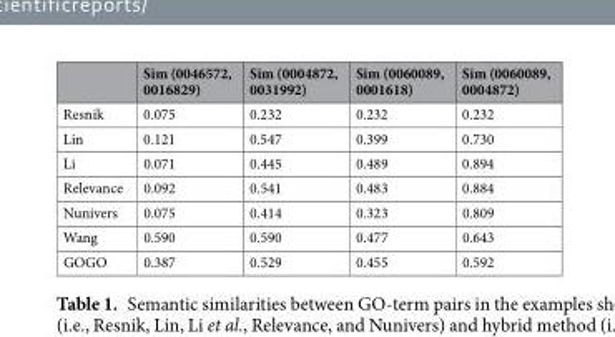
<table><thead><tr><td></td><td>Sim (0046572, 0016829)</td><td>Sim (0004872, 0031992)</td><td>Sim (0060089, 0001618)</td><td>Sim (0060089, 0004872)</td></tr></thead><tbody><tr><td>Resnik</td><td>0.075</td><td>0.232</td><td>0.232</td><td>0.232</td></tr><tr><td>Lin</td><td>0.121</td><td>0.547</td><td>0.399</td><td>0.730</td></tr><tr><td>Li</td><td>0.071</td><td>0.445</td><td>0.489</td><td>0.894</td></tr><tr><td>Relevance</td><td>0.092</td><td>0.541</td><td>0.483</td><td>0.884</td></tr><tr><td>Nunivers</td><td>0.075</td><td>0.414</td><td>0.323</td><td>0.809</td></tr><tr><td>Wang</td><td>0.590</td><td>0.590</td><td>0.477</td><td>0.643</td></tr><tr><td>GOGO</td><td>0.387</td><td>0.529</td><td>0.455</td><td>0.592</td></tr></tbody></table>